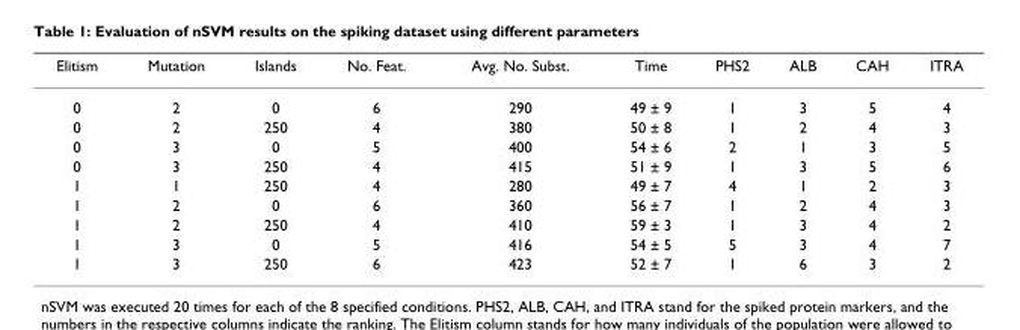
<table><thead><tr><td>Elitism</td><td>Mutation</td><td>Islands</td><td>No. Feat.</td><td>Avg. No. Subst.</td><td>Time</td><td>PHS2</td><td>ALB</td><td>CAH</td><td>ITRA</td></tr></thead><tbody><tr><td>0</td><td>2</td><td>0</td><td>6</td><td>290</td><td>49 ± 9</td><td>1</td><td>3</td><td>5</td><td>4</td></tr><tr><td>0</td><td>2</td><td>250</td><td>4</td><td>380</td><td>50 ± 8</td><td>1</td><td>2</td><td>4</td><td>3</td></tr><tr><td>0</td><td>3</td><td>0</td><td>5</td><td>400</td><td>54 ± 6</td><td>2</td><td>1</td><td>3</td><td>5</td></tr><tr><td>0</td><td>3</td><td>250</td><td>4</td><td>415</td><td>51 ± 9</td><td>1</td><td>3</td><td>5</td><td>6</td></tr><tr><td>1</td><td>1</td><td>250</td><td>4</td><td>280</td><td>49 ± 7</td><td>4</td><td>1</td><td>2</td><td>3</td></tr><tr><td>1</td><td>2</td><td>0</td><td>6</td><td>360</td><td>56 ± 7</td><td>1</td><td>2</td><td>4</td><td>3</td></tr><tr><td>1</td><td>2</td><td>250</td><td>4</td><td>410</td><td>59 ± 3</td><td>1</td><td>3</td><td>4</td><td>2</td></tr><tr><td>1</td><td>3</td><td>0</td><td>5</td><td>416</td><td>54 ± 5</td><td>5</td><td>3</td><td>4</td><td>7</td></tr><tr><td>1</td><td>3</td><td>250</td><td>6</td><td>423</td><td>52 ± 7</td><td>1</td><td>6</td><td>3</td><td>2</td></tr></tbody></table>